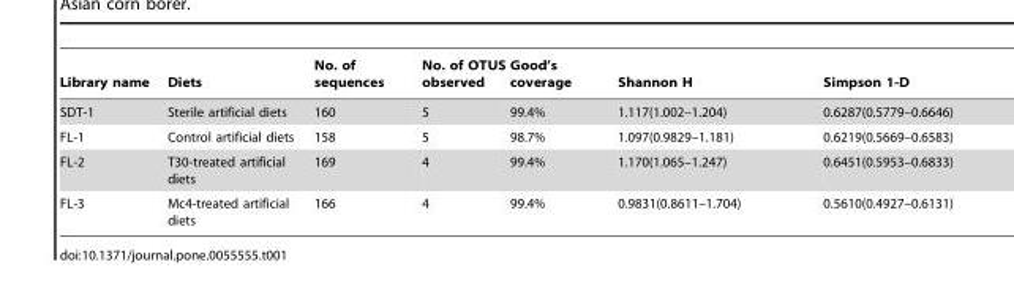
<table><thead><tr><td>Library name</td><td>Diets</td><td>No. of sequences</td><td>No. of OTUS observed</td><td>Good’s coverage</td><td>Shannon H</td><td>Simpson 1-D</td></tr></thead><tbody><tr><td>SDT-1</td><td>Sterile artificial diets</td><td>160</td><td>5</td><td>99.4%</td><td>1.117(1.002–1.204)</td><td>0.6287(0.5779–0.6646)</td></tr><tr><td>FL-1</td><td>Control artificial diets</td><td>158</td><td>5</td><td>98.7%</td><td>1.097(0.9829–1.181)</td><td>0.6219(0.5669–0.6583)</td></tr><tr><td>FL-2</td><td>T30-treated artificial diets</td><td>169</td><td>4</td><td>99.4%</td><td>1.170(1.065–1.247)</td><td>0.6451(0.5953–0.6833)</td></tr><tr><td>FL-3</td><td>Mc4-treated artificial diets</td><td>166</td><td>4</td><td>99.4%</td><td>0.9831(0.8611–1.704)</td><td>0.5610(0.4927–0.6131)</td></tr></tbody></table>